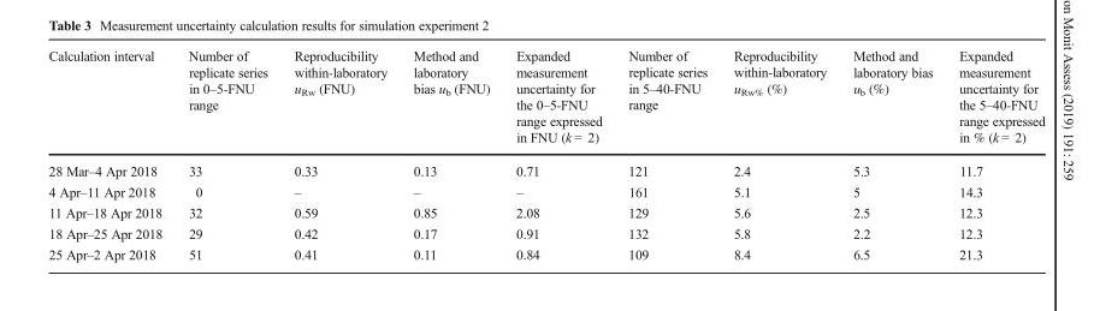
<table><thead><tr><td>Calculation interval</td><td>Number of replicate series in 0–5-FNU range</td><td>Reproducibility within-laboratory u<sub>Rw</sub> (FNU)</td><td>Method and laboratory bias u<sub>b</sub> (FNU)</td><td>Expanded measurement uncertainty for the 0–5-FNU range expressed in FNU (k = 2)</td><td>Number of replicate series in 5–40-FNU range</td><td>Reproducibility within-laboratory u<sub>Rw%</sub> (%)</td><td>Method and laboratory bias u<sub>b</sub> (%)</td><td>Expanded measurement uncertainty for the 5–40-FNU range expressed in % (k = 2)</td></tr></thead><tbody><tr><td>28 Mar–4 Apr 2018</td><td>33</td><td>0.33</td><td>0.13</td><td>0.71</td><td>121</td><td>2.4</td><td>5.3</td><td>11.7</td></tr><tr><td>4 Apr–11 Apr 2018</td><td>0</td><td>–</td><td>–</td><td>–</td><td>161</td><td>5.1</td><td>5</td><td>14.3</td></tr><tr><td>11 Apr–18 Apr 2018</td><td>32</td><td>0.59</td><td>0.85</td><td>2.08</td><td>129</td><td>5.6</td><td>2.5</td><td>12.3</td></tr><tr><td>18 Apr–25 Apr 2018</td><td>29</td><td>0.42</td><td>0.17</td><td>0.91</td><td>132</td><td>5.8</td><td>2.2</td><td>12.3</td></tr><tr><td>25 Apr–2 Apr 2018</td><td>51</td><td>0.41</td><td>0.11</td><td>0.84</td><td>109</td><td>8.4</td><td>6.5</td><td>21.3</td></tr></tbody></table>